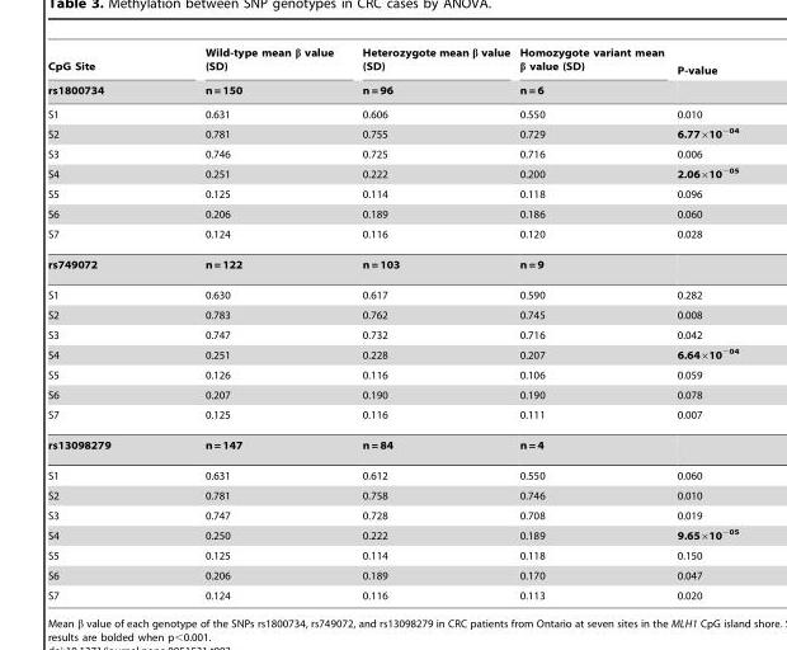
<table><thead><tr><td rowspan="2">CpG Site rs1800734</td><td rowspan="2">Wild-type mean β value (SD) n = 150</td><td rowspan="2">Heterozygote mean β value (SD) n = 96</td><td rowspan="2">Homozygote variant mean β value (SD) n = 6</td><td rowspan="2">P-value</td></tr><tr></tr></thead><tbody><tr><td>S1</td><td>0.631</td><td>0.606</td><td>0.550</td><td>0.010</td></tr><tr><td>S2</td><td>0.781</td><td>0.755</td><td>0.729</td><td>6.77×10<sup>−04</sup></td></tr><tr><td>S3</td><td>0.746</td><td>0.725</td><td>0.716</td><td>0.006</td></tr><tr><td>S4</td><td>0.251</td><td>0.222</td><td>0.200</td><td>2.06×10<sup>−05</sup></td></tr><tr><td>S5</td><td>0.125</td><td>0.114</td><td>0.118</td><td>0.096</td></tr><tr><td>S6</td><td>0.206</td><td>0.189</td><td>0.186</td><td>0.060</td></tr><tr><td>S7</td><td>0.124</td><td>0.116</td><td>0.120</td><td>0.028</td></tr><tr><td>rs749072</td><td>n = 122</td><td>n = 103</td><td>n = 9</td><td></td></tr><tr><td>S1</td><td>0.630</td><td>0.617</td><td>0.590</td><td>0.282</td></tr><tr><td>S2</td><td>0.783</td><td>0.762</td><td>0.745</td><td>0.008</td></tr><tr><td>S3</td><td>0.747</td><td>0.732</td><td>0.716</td><td>0.042</td></tr><tr><td>S4</td><td>0.251</td><td>0.228</td><td>0.207</td><td>6.64×10<sup>−04</sup></td></tr><tr><td>S5</td><td>0.126</td><td>0.116</td><td>0.106</td><td>0.059</td></tr><tr><td>S6</td><td>0.207</td><td>0.190</td><td>0.190</td><td>0.078</td></tr><tr><td>S7</td><td>0.125</td><td>0.116</td><td>0.111</td><td>0.007</td></tr><tr><td>rs13098279</td><td>n = 147</td><td>n = 84</td><td>n = 4</td><td></td></tr><tr><td>S1</td><td>0.631</td><td>0.612</td><td>0.550</td><td>0.060</td></tr><tr><td>S2</td><td>0.781</td><td>0.758</td><td>0.746</td><td>0.010</td></tr><tr><td>S3</td><td>0.747</td><td>0.728</td><td>0.708</td><td>0.019</td></tr><tr><td>S4</td><td>0.250</td><td>0.222</td><td>0.189</td><td>9.65×10<sup>−05</sup></td></tr><tr><td>S5</td><td>0.125</td><td>0.114</td><td>0.118</td><td>0.150</td></tr><tr><td>S6</td><td>0.206</td><td>0.189</td><td>0.170</td><td>0.047</td></tr><tr><td>S7</td><td>0.124</td><td>0.116</td><td>0.113</td><td>0.020</td></tr></tbody></table>